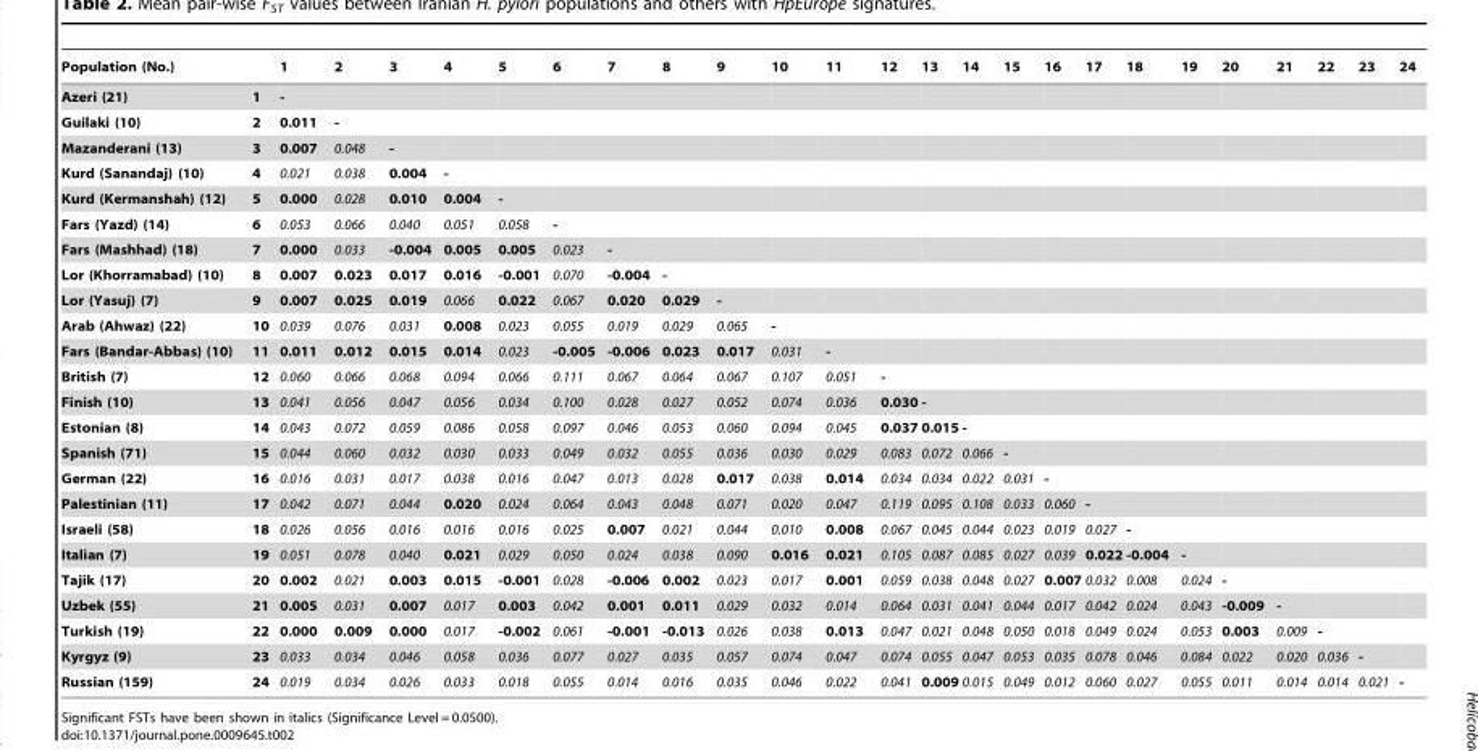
<table><thead><tr><td>Population (No.)</td><td></td><td>1</td><td>2</td><td>3</td><td>4</td><td>5</td><td>6</td><td>7</td><td>8</td><td>9</td><td>10</td><td>11</td><td>12</td><td>13</td><td>14</td><td>15</td><td>16</td><td>17</td><td>18</td><td>19</td><td>20</td><td>21</td><td>22</td><td>23</td><td>24</td></tr></thead><tbody><tr><td>Azeri (21)</td><td>1</td><td>-</td><td></td><td></td><td></td><td></td><td></td><td></td><td></td><td></td><td></td><td></td><td></td><td></td><td></td><td></td><td></td><td></td><td></td><td></td><td></td><td></td><td></td><td></td><td></td></tr><tr><td>Guilaki (10)</td><td>2</td><td>0.011</td><td>-</td><td></td><td></td><td></td><td></td><td></td><td></td><td></td><td></td><td></td><td></td><td></td><td></td><td></td><td></td><td></td><td></td><td></td><td></td><td></td><td></td><td></td><td></td></tr><tr><td>Mazanderani (13)</td><td>3</td><td>0.007</td><td>0.048</td><td>-</td><td></td><td></td><td></td><td></td><td></td><td></td><td></td><td></td><td></td><td></td><td></td><td></td><td></td><td></td><td></td><td></td><td></td><td></td><td></td><td></td><td></td></tr><tr><td>Kurd (Sanandaj) (10)</td><td>4</td><td>0.021</td><td>0.038</td><td>0.004</td><td>-</td><td></td><td></td><td></td><td></td><td></td><td></td><td></td><td></td><td></td><td></td><td></td><td></td><td></td><td></td><td></td><td></td><td></td><td></td><td></td><td></td></tr><tr><td>Kurd (Kermanshah) (12)</td><td>5</td><td>0.000</td><td>0.028</td><td>0.010</td><td>0.004</td><td>-</td><td></td><td></td><td></td><td></td><td></td><td></td><td></td><td></td><td></td><td></td><td></td><td></td><td></td><td></td><td></td><td></td><td></td><td></td><td></td></tr><tr><td>Fars (Yazd) (14)</td><td>6</td><td>0.053</td><td>0.066</td><td>0.040</td><td>0.051</td><td>0.058</td><td>-</td><td></td><td></td><td></td><td></td><td></td><td></td><td></td><td></td><td></td><td></td><td></td><td></td><td></td><td></td><td></td><td></td><td></td><td></td></tr><tr><td>Fars (Mashhad) (18)</td><td>7</td><td>0.000</td><td>0.033</td><td>-0.004</td><td>0.005</td><td>0.005</td><td>0.023</td><td>-</td><td></td><td></td><td></td><td></td><td></td><td></td><td></td><td></td><td></td><td></td><td></td><td></td><td></td><td></td><td></td><td></td><td></td></tr><tr><td>Lor (Khorramabad) (10)</td><td>8</td><td>0.007</td><td>0.023</td><td>0.017</td><td>0.016</td><td>-0.001</td><td>0.070</td><td>-0.004</td><td>-</td><td></td><td></td><td></td><td></td><td></td><td></td><td></td><td></td><td></td><td></td><td></td><td></td><td></td><td></td><td></td><td></td></tr><tr><td>Lor (Yasuj) (7)</td><td>9</td><td>0.007</td><td>0.025</td><td>0.019</td><td>0.066</td><td>0.022</td><td>0.067</td><td>0.020</td><td>0.029</td><td>-</td><td></td><td></td><td></td><td></td><td></td><td></td><td></td><td></td><td></td><td></td><td></td><td></td><td></td><td></td><td></td></tr><tr><td>Arab (Ahwaz) (22)</td><td>10</td><td>0.039</td><td>0.076</td><td>0.031</td><td>0.008</td><td>0.023</td><td>0.055</td><td>0.019</td><td>0.029</td><td>0.065</td><td>-</td><td></td><td></td><td></td><td></td><td></td><td></td><td></td><td></td><td></td><td></td><td></td><td></td><td></td><td></td></tr><tr><td>Fars (Bandar-Abbas) (10)</td><td>11</td><td>0.011</td><td>0.012</td><td>0.015</td><td>0.014</td><td>0.023</td><td>-0.005</td><td>-0.006</td><td>0.023</td><td>0.017</td><td>0.031</td><td>-</td><td></td><td></td><td></td><td></td><td></td><td></td><td></td><td></td><td></td><td></td><td></td><td></td><td></td></tr><tr><td>British (7)</td><td>12</td><td>0.060</td><td>0.066</td><td>0.068</td><td>0.094</td><td>0.066</td><td>0.111</td><td>0.067</td><td>0.064</td><td>0.067</td><td>0.107</td><td>0.051</td><td>-</td><td></td><td></td><td></td><td></td><td></td><td></td><td></td><td></td><td></td><td></td><td></td><td></td></tr><tr><td>Finish (10)</td><td>13</td><td>0.041</td><td>0.056</td><td>0.047</td><td>0.056</td><td>0.034</td><td>0.100</td><td>0.028</td><td>0.027</td><td>0.052</td><td>0.074</td><td>0.036</td><td>0.030</td><td>-</td><td></td><td></td><td></td><td></td><td></td><td></td><td></td><td></td><td></td><td></td><td></td></tr><tr><td>Estonian (8)</td><td>14</td><td>0.043</td><td>0.072</td><td>0.059</td><td>0.086</td><td>0.058</td><td>0.097</td><td>0.046</td><td>0.053</td><td>0.060</td><td>0.094</td><td>0.045</td><td>0.037</td><td>0.015</td><td>-</td><td></td><td></td><td></td><td></td><td></td><td></td><td></td><td></td><td></td><td></td></tr><tr><td>Spanish (71)</td><td>15</td><td>0.044</td><td>0.060</td><td>0.032</td><td>0.030</td><td>0.033</td><td>0.049</td><td>0.032</td><td>0.055</td><td>0.036</td><td>0.030</td><td>0.029</td><td>0.083</td><td>0.072</td><td>0.066</td><td>-</td><td></td><td></td><td></td><td></td><td></td><td></td><td></td><td></td><td></td></tr><tr><td>German (22)</td><td>16</td><td>0.016</td><td>0.031</td><td>0.017</td><td>0.038</td><td>0.016</td><td>0.047</td><td>0.013</td><td>0.028</td><td>0.017</td><td>0.038</td><td>0.014</td><td>0.034</td><td>0.034</td><td>0.022</td><td>0.031</td><td>-</td><td></td><td></td><td></td><td></td><td></td><td></td><td></td><td></td></tr><tr><td>Palestinian (11)</td><td>17</td><td>0.042</td><td>0.071</td><td>0.044</td><td>0.020</td><td>0.024</td><td>0.064</td><td>0.043</td><td>0.048</td><td>0.071</td><td>0.020</td><td>0.047</td><td>0.119</td><td>0.095</td><td>0.108</td><td>0.033</td><td>0.060</td><td>-</td><td></td><td></td><td></td><td></td><td></td><td></td><td></td></tr><tr><td>Israeli (58)</td><td>18</td><td>0.026</td><td>0.056</td><td>0.016</td><td>0.016</td><td>0.016</td><td>0.025</td><td>0.007</td><td>0.021</td><td>0.044</td><td>0.010</td><td>0.008</td><td>0.067</td><td>0.045</td><td>0.044</td><td>0.023</td><td>0.019</td><td>0.027</td><td>-</td><td></td><td></td><td></td><td></td><td></td><td></td></tr><tr><td>Italian (7)</td><td>19</td><td>0.051</td><td>0.078</td><td>0.040</td><td>0.021</td><td>0.029</td><td>0.050</td><td>0.024</td><td>0.038</td><td>0.090</td><td>0.016</td><td>0.021</td><td>0.105</td><td>0.087</td><td>0.085</td><td>0.027</td><td>0.039</td><td>0.022</td><td>-0.004</td><td>-</td><td></td><td></td><td></td><td></td><td></td></tr><tr><td>Tajik (17)</td><td>20</td><td>0.002</td><td>0.021</td><td>0.003</td><td>0.015</td><td>-0.001</td><td>0.028</td><td>-0.006</td><td>0.002</td><td>0.023</td><td>0.017</td><td>0.001</td><td>0.059</td><td>0.038</td><td>0.048</td><td>0.027</td><td>0.007</td><td>0.032</td><td>0.008</td><td>0.024</td><td>-</td><td></td><td></td><td></td><td></td></tr><tr><td>Uzbek (55)</td><td>21</td><td>0.005</td><td>0.031</td><td>0.007</td><td>0.017</td><td>0.003</td><td>0.042</td><td>0.001</td><td>0.011</td><td>0.029</td><td>0.032</td><td>0.014</td><td>0.064</td><td>0.031</td><td>0.041</td><td>0.044</td><td>0.017</td><td>0.042</td><td>0.024</td><td>0.043</td><td>-0.009</td><td>-</td><td></td><td></td><td></td></tr><tr><td>Turkish (19)</td><td>22</td><td>0.000</td><td>0.009</td><td>0.000</td><td>0.017</td><td>-0.002</td><td>0.061</td><td>-0.001</td><td>-0.013</td><td>0.026</td><td>0.038</td><td>0.013</td><td>0.047</td><td>0.021</td><td>0.048</td><td>0.050</td><td>0.018</td><td>0.049</td><td>0.024</td><td>0.053</td><td>0.003</td><td>0.009</td><td>-</td><td></td><td></td></tr><tr><td>Kyrgyz (9)</td><td>23</td><td>0.033</td><td>0.034</td><td>0.046</td><td>0.058</td><td>0.036</td><td>0.077</td><td>0.027</td><td>0.035</td><td>0.057</td><td>0.074</td><td>0.047</td><td>0.074</td><td>0.055</td><td>0.047</td><td>0.053</td><td>0.035</td><td>0.078</td><td>0.046</td><td>0.084</td><td>0.022</td><td>0.020</td><td>0.036</td><td>-</td><td></td></tr><tr><td>Russian (159)</td><td>24</td><td>0.019</td><td>0.034</td><td>0.026</td><td>0.033</td><td>0.018</td><td>0.055</td><td>0.014</td><td>0.016</td><td>0.035</td><td>0.046</td><td>0.022</td><td>0.041</td><td>0.009</td><td>0.015</td><td>0.049</td><td>0.012</td><td>0.060</td><td>0.027</td><td>0.055</td><td>0.011</td><td>0.014</td><td>0.014</td><td>0.021</td><td>-</td></tr></tbody></table>